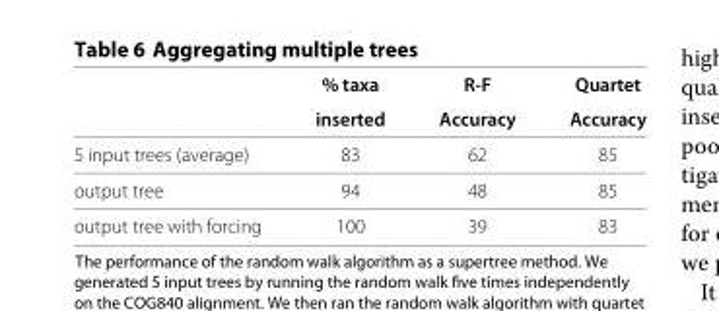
<table><thead><tr><td rowspan="2"></td><td rowspan="2">% taxa inserted</td><td rowspan="2">R-F Accuracy</td><td rowspan="2">Quartet Accuracy</td></tr><tr></tr></thead><tbody><tr><td>5 input trees (average)</td><td>83</td><td>62</td><td>85</td></tr><tr><td>output tree</td><td>94</td><td>48</td><td>85</td></tr><tr><td>output tree with forcing</td><td>100</td><td>39</td><td>83</td></tr></tbody></table>